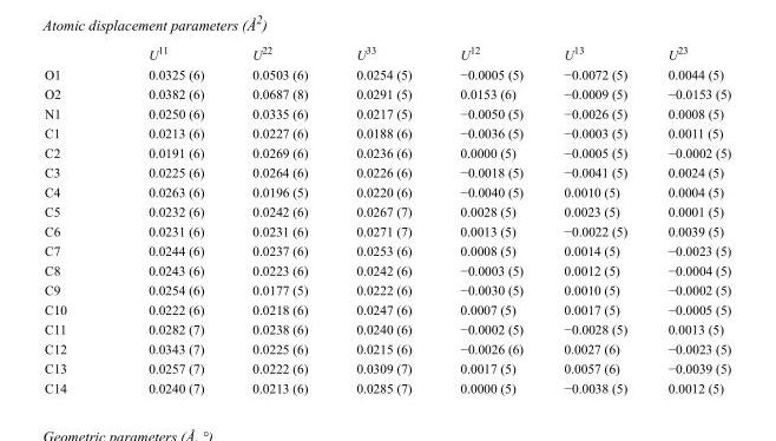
<table><thead><tr><td></td><td>U<sup>11</sup></td><td>U<sup>22</sup></td><td>U<sup>33</sup></td><td>U<sup>12</sup></td><td>U<sup>13</sup></td><td>U<sup>23</sup></td></tr></thead><tbody><tr><td>O1</td><td>0.0325 (6)</td><td>0.0503 (6)</td><td>0.0254 (5)</td><td>−0.0005 (5)</td><td>−0.0072 (5)</td><td>0.0044 (5)</td></tr><tr><td>O2</td><td>0.0382 (6)</td><td>0.0687 (8)</td><td>0.0291 (5)</td><td>0.0153 (6)</td><td>−0.0009 (5)</td><td>−0.0153 (5)</td></tr><tr><td>N1</td><td>0.0250 (6)</td><td>0.0335 (6)</td><td>0.0217 (5)</td><td>−0.0050 (5)</td><td>−0.0026 (5)</td><td>0.0008 (5)</td></tr><tr><td>C1</td><td>0.0213 (6)</td><td>0.0227 (6)</td><td>0.0188 (6)</td><td>−0.0036 (5)</td><td>−0.0003 (5)</td><td>0.0011 (5)</td></tr><tr><td>C2</td><td>0.0191 (6)</td><td>0.0269 (6)</td><td>0.0236 (6)</td><td>0.0000 (5)</td><td>−0.0005 (5)</td><td>−0.0002 (5)</td></tr><tr><td>C3</td><td>0.0225 (6)</td><td>0.0264 (6)</td><td>0.0226 (6)</td><td>−0.0018 (5)</td><td>−0.0041 (5)</td><td>0.0024 (5)</td></tr><tr><td>C4</td><td>0.0263 (6)</td><td>0.0196 (5)</td><td>0.0220 (6)</td><td>−0.0040 (5)</td><td>0.0010 (5)</td><td>0.0004 (5)</td></tr><tr><td>C5</td><td>0.0232 (6)</td><td>0.0242 (6)</td><td>0.0267 (7)</td><td>0.0028 (5)</td><td>0.0023 (5)</td><td>0.0001 (5)</td></tr><tr><td>C6</td><td>0.0231 (6)</td><td>0.0231 (6)</td><td>0.0271 (7)</td><td>0.0013 (5)</td><td>−0.0022 (5)</td><td>0.0039 (5)</td></tr><tr><td>C7</td><td>0.0244 (6)</td><td>0.0237 (6)</td><td>0.0253 (6)</td><td>0.0008 (5)</td><td>0.0014 (5)</td><td>−0.0023 (5)</td></tr><tr><td>C8</td><td>0.0243 (6)</td><td>0.0223 (6)</td><td>0.0242 (6)</td><td>−0.0003 (5)</td><td>0.0012 (5)</td><td>−0.0004 (5)</td></tr><tr><td>C9</td><td>0.0254 (6)</td><td>0.0177 (5)</td><td>0.0222 (6)</td><td>−0.0030 (5)</td><td>0.0010 (5)</td><td>−0.0002 (5)</td></tr><tr><td>C10</td><td>0.0222 (6)</td><td>0.0218 (6)</td><td>0.0247 (6)</td><td>0.0007 (5)</td><td>0.0017 (5)</td><td>−0.0005 (5)</td></tr><tr><td>C11</td><td>0.0282 (7)</td><td>0.0238 (6)</td><td>0.0240 (6)</td><td>−0.0002 (5)</td><td>−0.0028 (5)</td><td>0.0013 (5)</td></tr><tr><td>C12</td><td>0.0343 (7)</td><td>0.0225 (6)</td><td>0.0215 (6)</td><td>−0.0026 (6)</td><td>0.0027 (6)</td><td>−0.0023 (5)</td></tr><tr><td>C13</td><td>0.0257 (7)</td><td>0.0222 (6)</td><td>0.0309 (7)</td><td>0.0017 (5)</td><td>0.0057 (6)</td><td>−0.0039 (5)</td></tr><tr><td>C14</td><td>0.0240 (7)</td><td>0.0213 (6)</td><td>0.0285 (7)</td><td>0.0000 (5)</td><td>−0.0038 (5)</td><td>0.0012 (5)</td></tr></tbody></table>